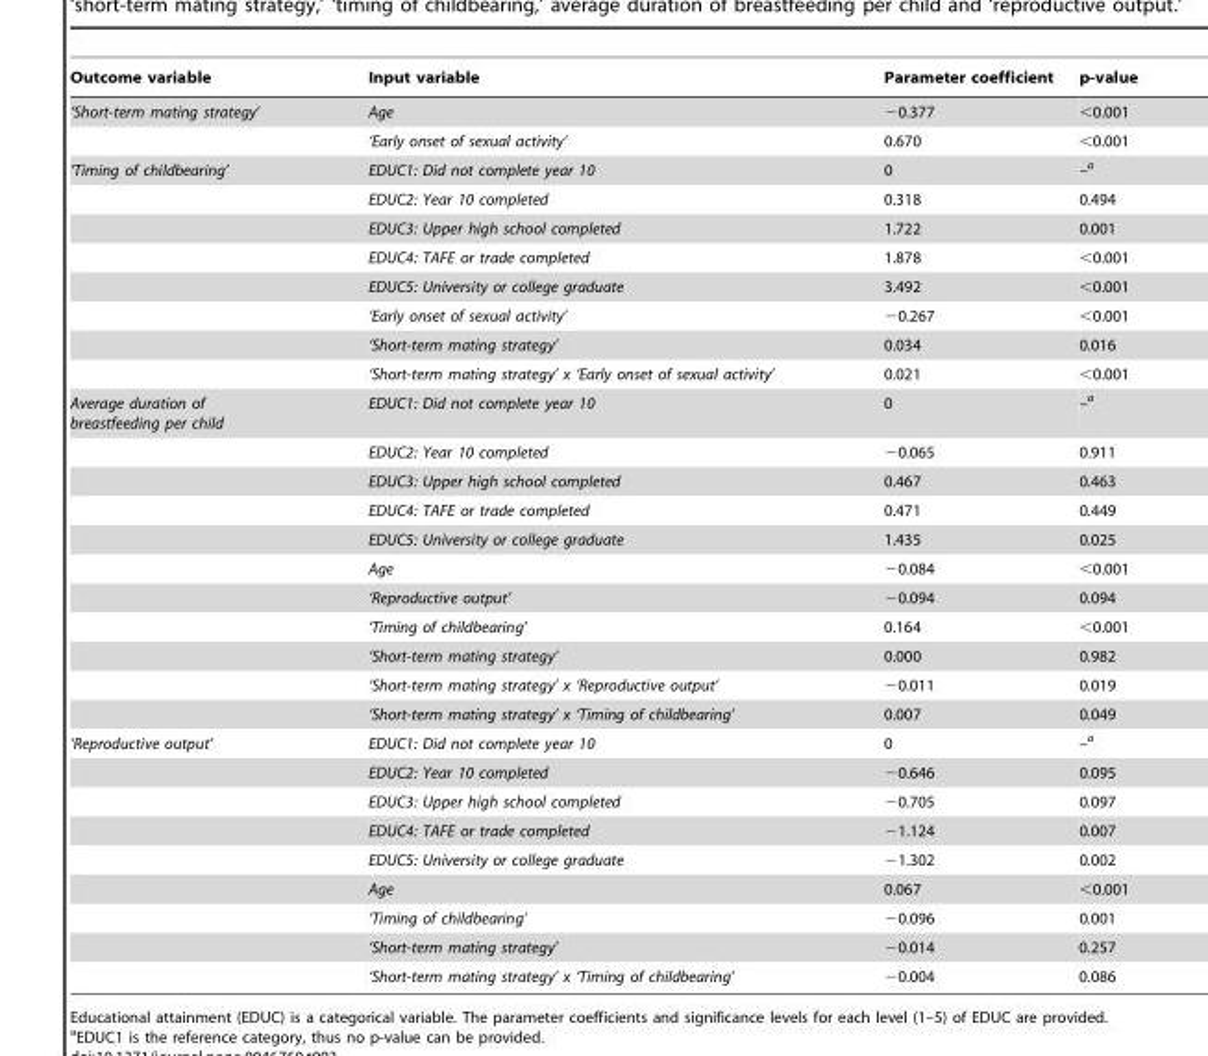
<table><thead><tr><td>Outcome variable</td><td>Input variable</td><td>Parameter coefficient</td><td>p-value</td></tr></thead><tbody><tr><td rowspan="2">‘Short-term mating strategy’</td><td>Age</td><td>−0.377</td><td>&lt;0.001</td></tr><tr><td>‘Early onset of sexual activity’</td><td>0.670</td><td>&lt;0.001</td></tr><tr><td rowspan="8">‘Timing of childbearing’</td><td>EDUC1: Did not complete year 10</td><td>0</td><td>–a</td></tr><tr><td>EDUC2: Year 10 completed</td><td>0.318</td><td>0.494</td></tr><tr><td>EDUC3: Upper high school completed</td><td>1.722</td><td>0.001</td></tr><tr><td>EDUC4: TAFE or trade completed</td><td>1.878</td><td>&lt;0.001</td></tr><tr><td>EDUC5: University or college graduate</td><td>3.492</td><td>&lt;0.001</td></tr><tr><td>‘Early onset of sexual activity’</td><td>−0.267</td><td>&lt;0.001</td></tr><tr><td>‘Short-term mating strategy’</td><td>0.034</td><td>0.016</td></tr><tr><td>‘Short-term mating strategy’ x ‘Early onset of sexual activity’</td><td>0.021</td><td>&lt;0.001</td></tr><tr><td rowspan="11">Average duration of breastfeeding per child</td><td>EDUC1: Did not complete year 10</td><td>0</td><td>–a</td></tr><tr><td>EDUC2: Year 10 completed</td><td>−0.065</td><td>0.911</td></tr><tr><td>EDUC3: Upper high school completed</td><td>0.467</td><td>0.463</td></tr><tr><td>EDUC4: TAFE or trade completed</td><td>0.471</td><td>0.449</td></tr><tr><td>EDUC5: University or college graduate</td><td>1.435</td><td>0.025</td></tr><tr><td>Age</td><td>−0.084</td><td>&lt;0.001</td></tr><tr><td>‘Reproductive output’</td><td>−0.094</td><td>0.094</td></tr><tr><td>‘Timing of childbearing’</td><td>0.164</td><td>&lt;0.001</td></tr><tr><td>‘Short-term mating strategy’</td><td>0.000</td><td>0.982</td></tr><tr><td>‘Short-term mating strategy’ x ‘Reproductive output’</td><td>−0.011</td><td>0.019</td></tr><tr><td>‘Short-term mating strategy’ x ‘Timing of childbearing’</td><td>0.007</td><td>0.049</td></tr><tr><td rowspan="9">‘Reproductive output’</td><td>EDUC1: Did not complete year 10</td><td>0</td><td>–a</td></tr><tr><td>EDUC2: Year 10 completed</td><td>−0.646</td><td>0.095</td></tr><tr><td>EDUC3: Upper high school completed</td><td>−0.705</td><td>0.097</td></tr><tr><td>EDUC4: TAFE or trade completed</td><td>−1.124</td><td>0.007</td></tr><tr><td>EDUC5: University or college graduate</td><td>−1.302</td><td>0.002</td></tr><tr><td>Age</td><td>0.067</td><td>&lt;0.001</td></tr><tr><td>‘Timing of childbearing’</td><td>−0.096</td><td>0.001</td></tr><tr><td>‘Short-term mating strategy’</td><td>−0.014</td><td>0.257</td></tr><tr><td>‘Short-term mating strategy’ x ‘Timing of childbearing’</td><td>−0.004</td><td>0.086</td></tr></tbody></table>